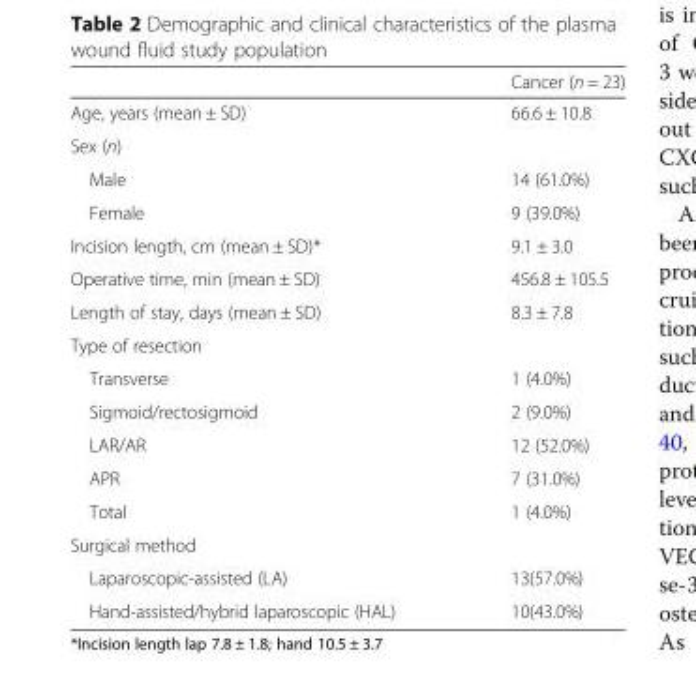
<table><thead><tr><td></td><td>Cancer (n = 23)</td></tr></thead><tbody><tr><td>Age, years (mean ± SD)</td><td>66.6 ± 10.8</td></tr><tr><td colspan="2">Sex (n)</td></tr><tr><td>Male</td><td>14 (61.0%)</td></tr><tr><td>Female</td><td>9 (39.0%)</td></tr><tr><td>Incision length, cm (mean ± SD)*</td><td>9.1 ± 3.0</td></tr><tr><td>Operative time, min (mean ± SD)</td><td>456.8 ± 105.5</td></tr><tr><td>Length of stay, days (mean ± SD)</td><td>8.3 ± 7.8</td></tr><tr><td colspan="2">Type of resection</td></tr><tr><td>Transverse</td><td>1 (4.0%)</td></tr><tr><td>Sigmoid/rectosigmoid</td><td>2 (9.0%)</td></tr><tr><td>LAR/AR</td><td>12 (52.0%)</td></tr><tr><td>APR</td><td>7 (31.0%)</td></tr><tr><td>Total</td><td>1 (4.0%)</td></tr><tr><td colspan="2">Surgical method</td></tr><tr><td>Laparoscopic-assisted (LA)</td><td>13(57.0%)</td></tr><tr><td>Hand-assisted/hybrid laparoscopic (HAL)</td><td>10(43.0%)</td></tr></tbody></table>